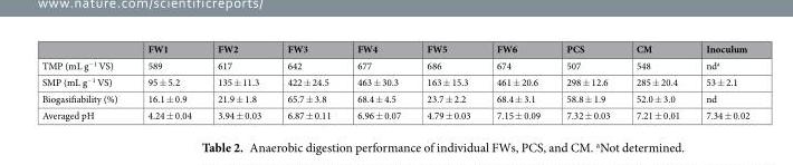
<table><thead><tr><td></td><td>FW1</td><td>FW2</td><td>FW3</td><td>FW4</td><td>FW5</td><td>FW6</td><td>PCS</td><td>CM</td><td>Inoculum</td></tr></thead><tbody><tr><td>TMP (mL g<sup>−1</sup> VS)</td><td>589</td><td>617</td><td>642</td><td>677</td><td>686</td><td>674</td><td>507</td><td>548</td><td>nd<sup>a</sup></td></tr><tr><td>SMP (mL g<sup>−1</sup> VS)</td><td>95 ± 5.2</td><td>135 ± 11.3</td><td>422 ± 24.5</td><td>463 ± 30.3</td><td>163 ± 15.3</td><td>461 ± 20.6</td><td>298 ± 12.6</td><td>285 ± 20.4</td><td>53 ± 2.1</td></tr><tr><td>Biogasifiability (%)</td><td>16.1 ± 0.9</td><td>21.9 ± 1.8</td><td>65.7 ± 3.8</td><td>68.4 ± 4.5</td><td>23.7 ± 2.2</td><td>68.4 ± 3.1</td><td>58.8 ± 1.9</td><td>52.0 ± 3.0</td><td>nd</td></tr><tr><td>Averaged pH</td><td>4.24 ± 0.04</td><td>3.94 ± 0.03</td><td>6.87 ± 0.11</td><td>6.96 ± 0.07</td><td>4.79 ± 0.03</td><td>7.15 ± 0.09</td><td>7.32 ± 0.03</td><td>7.21 ± 0.01</td><td>7.34 ± 0.02</td></tr></tbody></table>